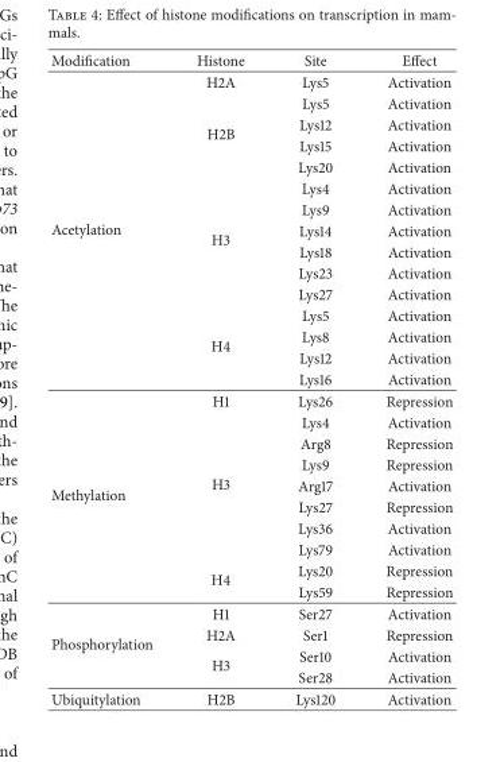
<table><thead><tr><td>Modification</td><td>Histone</td><td>Site</td><td>Effect</td></tr></thead><tbody><tr><td rowspan="15">Acetylation</td><td>H2A</td><td>Lys5</td><td>Activation</td></tr><tr><td rowspan="4">H2B</td><td>Lys5</td><td>Activation</td></tr><tr><td>Lys12</td><td>Activation</td></tr><tr><td>Lys15</td><td>Activation</td></tr><tr><td>Lys20</td><td>Activation</td></tr><tr><td rowspan="6">H3</td><td>Lys4</td><td>Activation</td></tr><tr><td>Lys9</td><td>Activation</td></tr><tr><td>Lys14</td><td>Activation</td></tr><tr><td>Lys18</td><td>Activation</td></tr><tr><td>Lys23</td><td>Activation</td></tr><tr><td>Lys27</td><td>Activation</td></tr><tr><td rowspan="4">H4</td><td>Lys5</td><td>Activation</td></tr><tr><td>Lys8</td><td>Activation</td></tr><tr><td>Lys12</td><td>Activation</td></tr><tr><td>Lys16</td><td>Activation</td></tr><tr><td rowspan="10">Methylation</td><td>H1</td><td>Lys26</td><td>Repression</td></tr><tr><td rowspan="7">H3</td><td>Lys4</td><td>Activation</td></tr><tr><td>Arg8</td><td>Repression</td></tr><tr><td>Lys9</td><td>Repression</td></tr><tr><td>Arg17</td><td>Activation</td></tr><tr><td>Lys27</td><td>Repression</td></tr><tr><td>Lys36</td><td>Activation</td></tr><tr><td>Lys79</td><td>Activation</td></tr><tr><td rowspan="2">H4</td><td>Lys20</td><td>Repression</td></tr><tr><td>Lys59</td><td>Repression</td></tr><tr><td rowspan="4">Phosphorylation</td><td>H1</td><td>Ser27</td><td>Activation</td></tr><tr><td>H2A</td><td>Ser1</td><td>Repression</td></tr><tr><td rowspan="2">H3</td><td>Ser10</td><td>Activation</td></tr><tr><td>Ser28</td><td>Activation</td></tr><tr><td>Ubiquitylation</td><td>H2B</td><td>Lys120</td><td>Activation</td></tr></tbody></table>